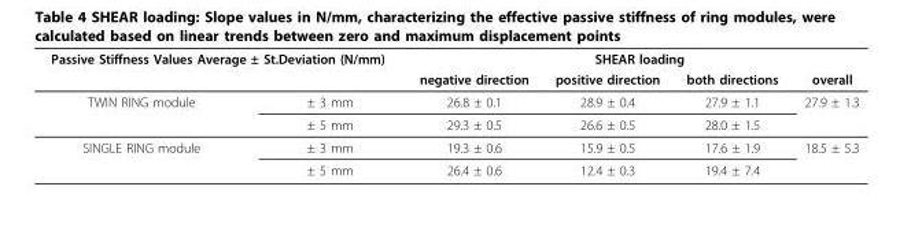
<table><thead><tr><td colspan="2">Passive Stiffness Values Average ± St.Deviation (N/mm)</td><td colspan="4">SHEAR loading</td></tr><tr><td></td><td></td><td>negative direction</td><td>positive direction</td><td>both directions</td><td>overall</td></tr></thead><tbody><tr><td rowspan="2">TWIN RING module</td><td>± 3 mm</td><td>26.8 ± 0.1</td><td>28.9 ± 0.4</td><td>27.9 ± 1.1</td><td>27.9 ± 1.3</td></tr><tr><td>± 5 mm</td><td>29.3 ± 0.5</td><td>26.6 ± 0.5</td><td>28.0 ± 1.5</td><td></td></tr><tr><td rowspan="2">SINGLE RING module</td><td>± 3 mm</td><td>19.3 ± 0.6</td><td>15.9 ± 0.5</td><td>17.6 ± 1.9</td><td>18.5 ± 5.3</td></tr><tr><td>± 5 mm</td><td>26.4 ± 0.6</td><td>12.4 ± 0.3</td><td>19.4 ± 7.4</td><td></td></tr></tbody></table>